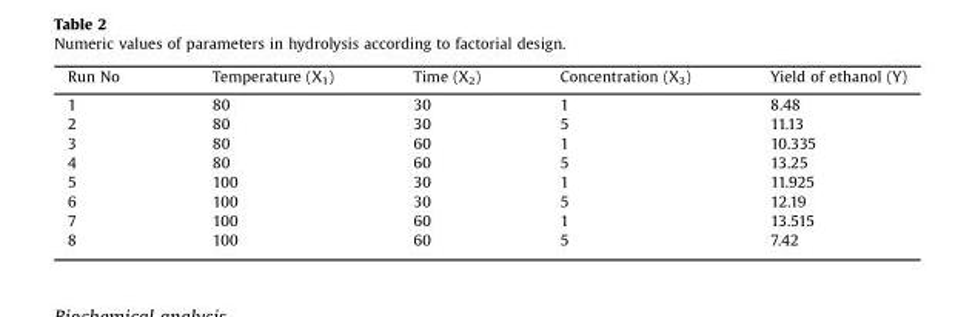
<table><thead><tr><td>Run No</td><td>Temperature (X<sub>1</sub>)</td><td>Time (X<sub>2</sub>)</td><td>Concentration (X<sub>3</sub>)</td><td>Yield of ethanol (Y)</td></tr></thead><tbody><tr><td>1</td><td>80</td><td>30</td><td>1</td><td>8.48</td></tr><tr><td>2</td><td>80</td><td>30</td><td>5</td><td>11.13</td></tr><tr><td>3</td><td>80</td><td>60</td><td>1</td><td>10.335</td></tr><tr><td>4</td><td>80</td><td>60</td><td>5</td><td>13.25</td></tr><tr><td>5</td><td>100</td><td>30</td><td>1</td><td>11.925</td></tr><tr><td>6</td><td>100</td><td>30</td><td>5</td><td>12.19</td></tr><tr><td>7</td><td>100</td><td>60</td><td>1</td><td>13.515</td></tr><tr><td>8</td><td>100</td><td>60</td><td>5</td><td>7.42</td></tr></tbody></table>